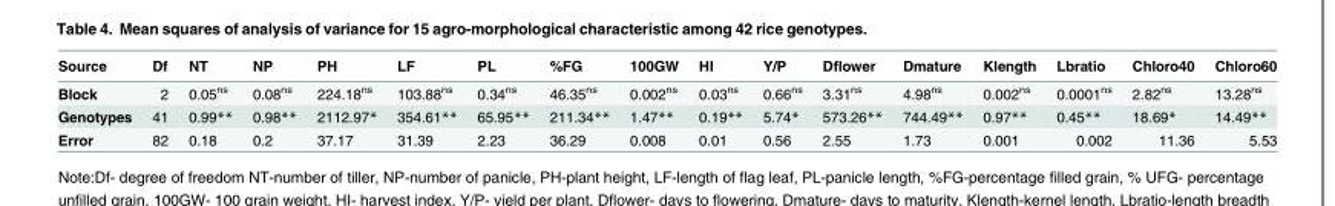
<table><thead><tr><td>Source</td><td>Df</td><td>NT</td><td>NP</td><td>PH</td><td>LF</td><td>PL</td><td>%FG</td><td>100GW</td><td>HI</td><td>Y/P</td><td>Dflower</td><td>Dmature</td><td>Klength</td><td>Lbratio</td><td>Chloro40</td><td>Chloro60</td></tr></thead><tbody><tr><td>Block</td><td>2</td><td>0.05<sup>ns</sup></td><td>0.08<sup>ns</sup></td><td>224.18<sup>ns</sup></td><td>103.88<sup>ns</sup></td><td>0.34<sup>ns</sup></td><td>46.35<sup>ns</sup></td><td>0.002<sup>ns</sup></td><td>0.03<sup>ns</sup></td><td>0.66<sup>ns</sup></td><td>3.31<sup>ns</sup></td><td>4.98<sup>ns</sup></td><td>0.002<sup>ns</sup></td><td>0.0001<sup>ns</sup></td><td>2.82<sup>ns</sup></td><td>13.28<sup>ns</sup></td></tr><tr><td>Genotypes</td><td>41</td><td>0.99**</td><td>0.98**</td><td>2112.97*</td><td>354.61**</td><td>65.95**</td><td>211.34**</td><td>1.47**</td><td>0.19**</td><td>5.74*</td><td>573.26**</td><td>744.49**</td><td>0.97**</td><td>0.45**</td><td>18.69*</td><td>14.49**</td></tr><tr><td>Error</td><td>82</td><td>0.18</td><td>0.2</td><td>37.17</td><td>31.39</td><td>2.23</td><td>36.29</td><td>0.008</td><td>0.01</td><td>0.56</td><td>2.55</td><td>1.73</td><td>0.001</td><td>0.002</td><td>11.36</td><td>5.53</td></tr></tbody></table>